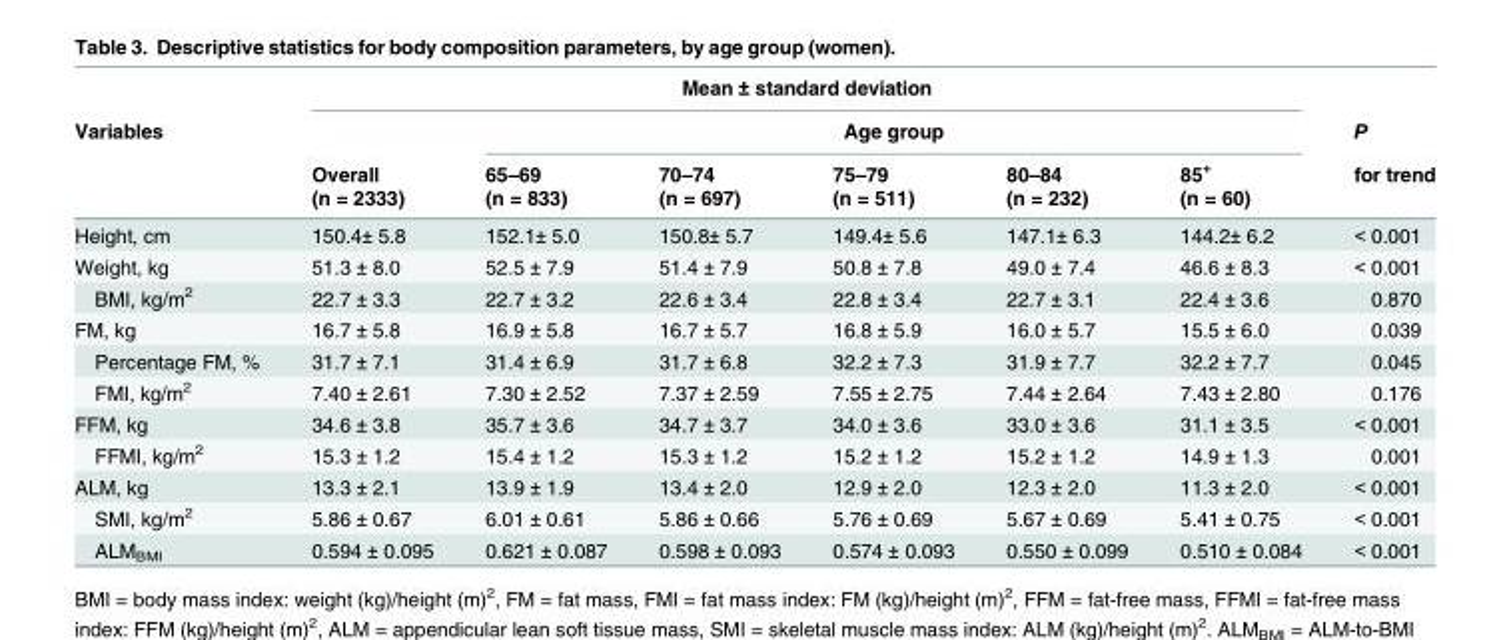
<table><thead><tr><td rowspan="4">Variables</td><td colspan="6">Mean ± standard deviation</td><td rowspan="4">P for trend</td></tr><tr><td rowspan="3">Overall (n = 2333)</td><td colspan="5">Age group</td></tr><tr><td rowspan="2">65–69 (n = 833)</td><td rowspan="2">70–74 (n = 697)</td><td rowspan="2">75–79 (n = 511)</td><td rowspan="2">80–84 (n = 232)</td><td rowspan="2">85<sup>+</sup> (n = 60)</td></tr><tr></tr></thead><tbody><tr><td>Height, cm</td><td>150.4± 5.8</td><td>152.1± 5.0</td><td>150.8± 5.7</td><td>149.4± 5.6</td><td>147.1± 6.3</td><td>144.2± 6.2</td><td>&lt; 0.001</td></tr><tr><td>Weight, kg</td><td>51.3 ± 8.0</td><td>52.5 ± 7.9</td><td>51.4 ± 7.9</td><td>50.8 ± 7.8</td><td>49.0 ± 7.4</td><td>46.6 ± 8.3</td><td>&lt; 0.001</td></tr><tr><td>BMI, kg/m<sup>2</sup></td><td>22.7 ± 3.3</td><td>22.7 ± 3.2</td><td>22.6 ± 3.4</td><td>22.8 ± 3.4</td><td>22.7 ± 3.1</td><td>22.4 ± 3.6</td><td>0.870</td></tr><tr><td>FM, kg</td><td>16.7 ± 5.8</td><td>16.9 ± 5.8</td><td>16.7 ± 5.7</td><td>16.8 ± 5.9</td><td>16.0 ± 5.7</td><td>15.5 ± 6.0</td><td>0.039</td></tr><tr><td>Percentage FM, %</td><td>31.7 ± 7.1</td><td>31.4 ± 6.9</td><td>31.7 ± 6.8</td><td>32.2 ± 7.3</td><td>31.9 ± 7.7</td><td>32.2 ± 7.7</td><td>0.045</td></tr><tr><td>FMI, kg/m<sup>2</sup></td><td>7.40 ± 2.61</td><td>7.30 ± 2.52</td><td>7.37 ± 2.59</td><td>7.55 ± 2.75</td><td>7.44 ± 2.64</td><td>7.43 ± 2.80</td><td>0.176</td></tr><tr><td>FFM, kg</td><td>34.6 ± 3.8</td><td>35.7 ± 3.6</td><td>34.7 ± 3.7</td><td>34.0 ± 3.6</td><td>33.0 ± 3.6</td><td>31.1 ± 3.5</td><td>&lt; 0.001</td></tr><tr><td>FFMI, kg/m<sup>2</sup></td><td>15.3 ± 1.2</td><td>15.4 ± 1.2</td><td>15.3 ± 1.2</td><td>15.2 ± 1.2</td><td>15.2 ± 1.2</td><td>14.9 ± 1.3</td><td>0.001</td></tr><tr><td>ALM, kg</td><td>13.3 ± 2.1</td><td>13.9 ± 1.9</td><td>13.4 ± 2.0</td><td>12.9 ± 2.0</td><td>12.3 ± 2.0</td><td>11.3 ± 2.0</td><td>&lt; 0.001</td></tr><tr><td>SMI, kg/m<sup>2</sup></td><td>5.86 ± 0.67</td><td>6.01 ± 0.61</td><td>5.86 ± 0.66</td><td>5.76 ± 0.69</td><td>5.67 ± 0.69</td><td>5.41 ± 0.75</td><td>&lt; 0.001</td></tr><tr><td>ALM<sub>BMI</sub></td><td>0.594 ± 0.095</td><td>0.621 ± 0.087</td><td>0.598 ± 0.093</td><td>0.574 ± 0.093</td><td>0.550 ± 0.099</td><td>0.510 ± 0.084</td><td>&lt; 0.001</td></tr></tbody></table>